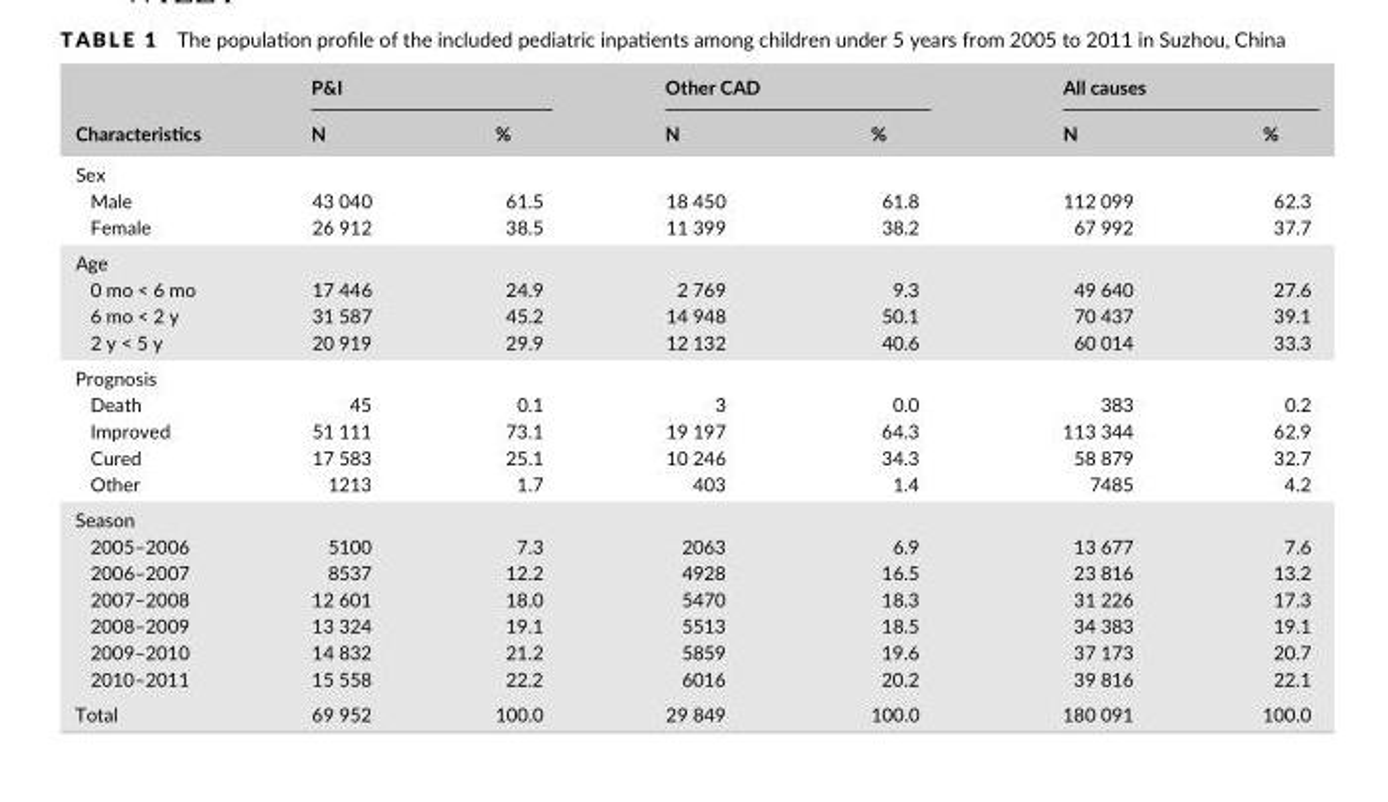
<table><thead><tr><td rowspan="2">Characteristics</td><td colspan="2">P&amp;I</td><td colspan="2">Other CAD</td><td colspan="2">All causes</td></tr><tr><td>N</td><td>%</td><td>N</td><td>%</td><td>N</td><td>%</td></tr></thead><tbody><tr><td colspan="7">Sex</td></tr><tr><td>Male</td><td>43 040</td><td>61.5</td><td>18 450</td><td>61.8</td><td>112 099</td><td>62.3</td></tr><tr><td>Female</td><td>26 912</td><td>38.5</td><td>11 399</td><td>38.2</td><td>67 992</td><td>37.7</td></tr><tr><td colspan="7">Age</td></tr><tr><td>0 mo &lt; 6 mo</td><td>17 446</td><td>24.9</td><td>2 769</td><td>9.3</td><td>49 640</td><td>27.6</td></tr><tr><td>6 mo &lt; 2 y</td><td>31 587</td><td>45.2</td><td>14 948</td><td>50.1</td><td>70 437</td><td>39.1</td></tr><tr><td>2 y &lt; 5 y</td><td>20 919</td><td>29.9</td><td>12 132</td><td>40.6</td><td>60 014</td><td>33.3</td></tr><tr><td colspan="7">Prognosis</td></tr><tr><td>Death</td><td>45</td><td>0.1</td><td>3</td><td>0.0</td><td>383</td><td>0.2</td></tr><tr><td>Improved</td><td>51 111</td><td>73.1</td><td>19 197</td><td>64.3</td><td>113 344</td><td>62.9</td></tr><tr><td>Cured</td><td>17 583</td><td>25.1</td><td>10 246</td><td>34.3</td><td>58 879</td><td>32.7</td></tr><tr><td>Other</td><td>1213</td><td>1.7</td><td>403</td><td>1.4</td><td>7485</td><td>4.2</td></tr><tr><td colspan="7">Season</td></tr><tr><td>2005–2006</td><td>5100</td><td>7.3</td><td>2063</td><td>6.9</td><td>13 677</td><td>7.6</td></tr><tr><td>2006–2007</td><td>8537</td><td>12.2</td><td>4928</td><td>16.5</td><td>23 816</td><td>13.2</td></tr><tr><td>2007–2008</td><td>12 601</td><td>18.0</td><td>5470</td><td>18.3</td><td>31 226</td><td>17.3</td></tr><tr><td>2008–2009</td><td>13 324</td><td>19.1</td><td>5513</td><td>18.5</td><td>34 383</td><td>19.1</td></tr><tr><td>2009–2010</td><td>14 832</td><td>21.2</td><td>5859</td><td>19.6</td><td>37 173</td><td>20.7</td></tr><tr><td>2010–2011</td><td>15 558</td><td>22.2</td><td>6016</td><td>20.2</td><td>39 816</td><td>22.1</td></tr><tr><td>Total</td><td>69 952</td><td>100.0</td><td>29 849</td><td>100.0</td><td>180 091</td><td>100.0</td></tr></tbody></table>